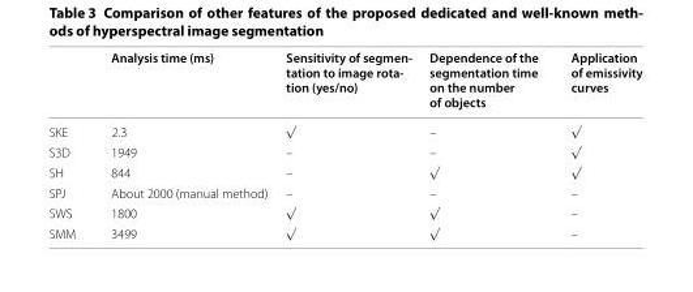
<table><thead><tr><td></td><td>Analysis time (ms)</td><td>Sensitivity of segmen‑ tation to image rota‑ tion (yes/no)</td><td>Dependence of the segmentation time on the number of objects</td><td>Application of emissivity curves</td></tr></thead><tbody><tr><td>SKE</td><td>2.3</td><td>√</td><td>–</td><td>√</td></tr><tr><td>S3D</td><td>1949</td><td>–</td><td>–</td><td>√</td></tr><tr><td>SH</td><td>844</td><td>–</td><td>√</td><td>√</td></tr><tr><td>SPJ</td><td>About 2000 (manual method)</td><td>–</td><td>–</td><td>–</td></tr><tr><td>SWS</td><td>1800</td><td>√</td><td>√</td><td>–</td></tr><tr><td>SMM</td><td>3499</td><td>√</td><td>√</td><td>–</td></tr></tbody></table>